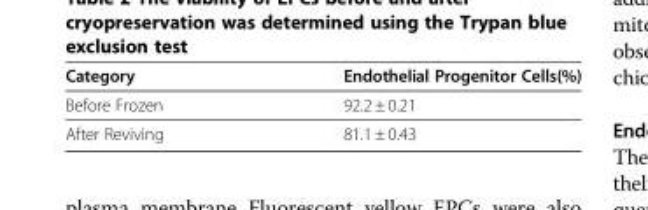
<table><thead><tr><td>Category</td><td>Endothelial Progenitor Cells(%)</td></tr></thead><tbody><tr><td>Before Frozen</td><td>92.2 ± 0.21</td></tr><tr><td>After Reviving</td><td>81.1 ± 0.43</td></tr></tbody></table>